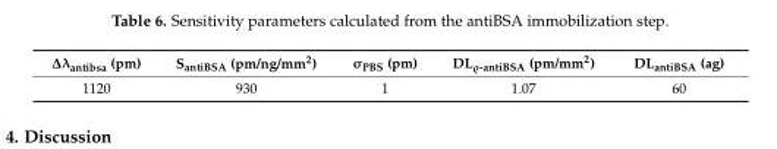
<table><thead><tr><td>∆λantibsa (pm)</td><td>S<sub>antiBSA</sub> (pm/ng/mm<sup>2</sup>)</td><td>σ<sub>PBS</sub> (pm)</td><td>DL<sub>ϱ-antiBSA</sub> (pm/mm<sup>2</sup>)</td><td>DL<sub>antiBSA</sub> (ag)</td></tr></thead><tbody><tr><td>1120</td><td>930</td><td>1</td><td>1.07</td><td>60</td></tr></tbody></table>